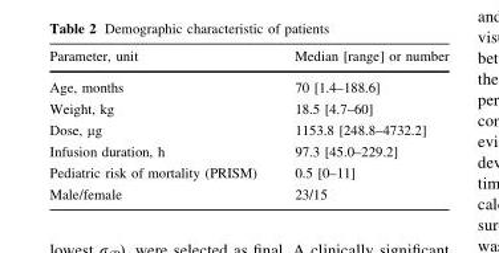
<table><thead><tr><td>Parameter, unit</td><td>Median [range] or number</td></tr></thead><tbody><tr><td>Age, months</td><td>70 [1.4–188.6]</td></tr><tr><td>Weight, kg</td><td>18.5 [4.7–60]</td></tr><tr><td>Dose, µg</td><td>1153.8 [248.8–4732.2]</td></tr><tr><td>Infusion duration, h</td><td>97.3 [45.0–229.2]</td></tr><tr><td>Pediatric risk of mortality (PRISM)</td><td>0.5 [0–11]</td></tr><tr><td>Male/female</td><td>23/15</td></tr></tbody></table>